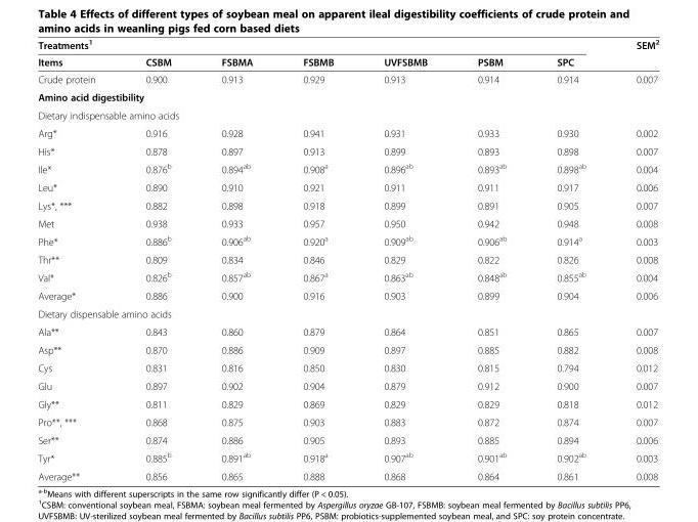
<table><thead><tr><td colspan="7">Treatments<sup>1</sup></td><td rowspan="2">SEM<sup>2</sup></td></tr><tr><td>Items</td><td>CSBM</td><td>FSBMA</td><td>FSBMB</td><td>UVFSBMB</td><td>PSBM</td><td>SPC</td></tr></thead><tbody><tr><td>Crude protein</td><td>0.900</td><td>0.913</td><td>0.929</td><td>0.913</td><td>0.914</td><td>0.914</td><td>0.007</td></tr><tr><td colspan="8">Amino acid digestibility</td></tr><tr><td colspan="8">Dietary indispensable amino acids</td></tr><tr><td>Arg*</td><td>0.916</td><td>0.928</td><td>0.941</td><td>0.931</td><td>0.933</td><td>0.930</td><td>0.002</td></tr><tr><td>His*</td><td>0.878</td><td>0.897</td><td>0.913</td><td>0.899</td><td>0.893</td><td>0.898</td><td>0.007</td></tr><tr><td>Ile*</td><td>0.876<sup>b</sup></td><td>0.894<sup>ab</sup></td><td>0.908<sup>a</sup></td><td>0.896<sup>ab</sup></td><td>0.893<sup>ab</sup></td><td>0.898<sup>ab</sup></td><td>0.004</td></tr><tr><td>Leu*</td><td>0.890</td><td>0.910</td><td>0.921</td><td>0.911</td><td>0.911</td><td>0.917</td><td>0.006</td></tr><tr><td>Lys*, ***</td><td>0.882</td><td>0.898</td><td>0.918</td><td>0.899</td><td>0.891</td><td>0.905</td><td>0.007</td></tr><tr><td>Met</td><td>0.938</td><td>0.933</td><td>0.957</td><td>0.950</td><td>0.942</td><td>0.948</td><td>0.008</td></tr><tr><td>Phe*</td><td>0.886<sup>b</sup></td><td>0.906<sup>ab</sup></td><td>0.920<sup>a</sup></td><td>0.909<sup>ab</sup></td><td>0.906<sup>ab</sup></td><td>0.914<sup>a</sup></td><td>0.003</td></tr><tr><td>Thr**</td><td>0.809</td><td>0.834</td><td>0.846</td><td>0.829</td><td>0.822</td><td>0.826</td><td>0.008</td></tr><tr><td>Val*</td><td>0.826<sup>b</sup></td><td>0.857<sup>ab</sup></td><td>0.867<sup>a</sup></td><td>0.863<sup>ab</sup></td><td>0.848<sup>ab</sup></td><td>0.855<sup>ab</sup></td><td>0.004</td></tr><tr><td>Average*</td><td>0.886</td><td>0.900</td><td>0.916</td><td>0.903</td><td>0.899</td><td>0.904</td><td>0.006</td></tr><tr><td colspan="8">Dietary dispensable amino acids</td></tr><tr><td>Ala**</td><td>0.843</td><td>0.860</td><td>0.879</td><td>0.864</td><td>0.851</td><td>0.865</td><td>0.007</td></tr><tr><td>Asp**</td><td>0.870</td><td>0.886</td><td>0.909</td><td>0.897</td><td>0.885</td><td>0.882</td><td>0.008</td></tr><tr><td>Cys</td><td>0.831</td><td>0.816</td><td>0.850</td><td>0.830</td><td>0.815</td><td>0.794</td><td>0.012</td></tr><tr><td>Glu</td><td>0.897</td><td>0.902</td><td>0.904</td><td>0.879</td><td>0.912</td><td>0.900</td><td>0.007</td></tr><tr><td>Gly**</td><td>0.811</td><td>0.829</td><td>0.869</td><td>0.829</td><td>0.829</td><td>0.818</td><td>0.012</td></tr><tr><td>Pro**, ***</td><td>0.868</td><td>0.875</td><td>0.903</td><td>0.883</td><td>0.872</td><td>0.874</td><td>0.007</td></tr><tr><td>Ser**</td><td>0.874</td><td>0.886</td><td>0.905</td><td>0.893</td><td>0.885</td><td>0.894</td><td>0.006</td></tr><tr><td>Tyr*</td><td>0.885<sup>b</sup></td><td>0.891<sup>ab</sup></td><td>0.918<sup>a</sup></td><td>0.907<sup>ab</sup></td><td>0.901<sup>ab</sup></td><td>0.902<sup>ab</sup></td><td>0.003</td></tr><tr><td>Average**</td><td>0.856</td><td>0.865</td><td>0.888</td><td>0.868</td><td>0.864</td><td>0.861</td><td>0.008</td></tr></tbody></table>